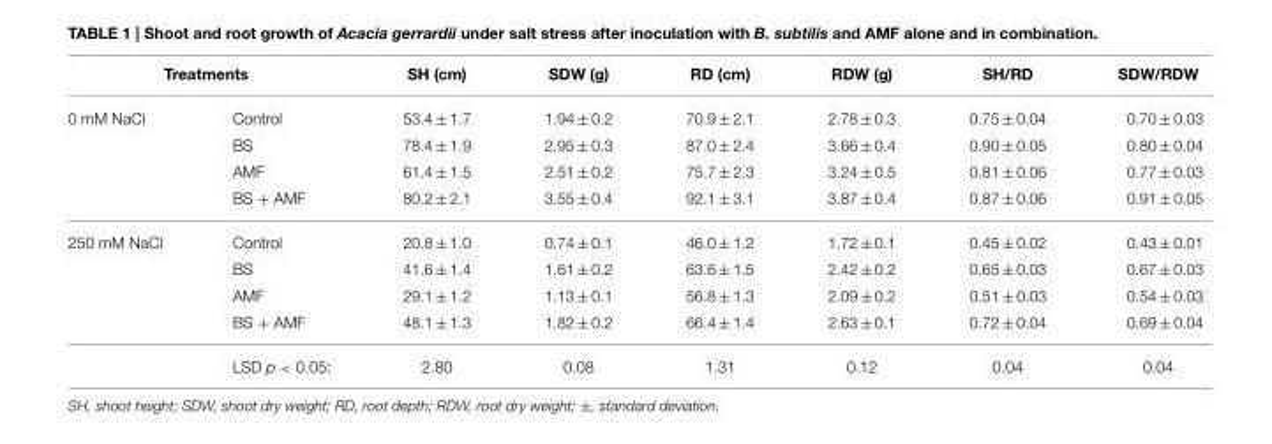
<table><thead><tr><td colspan="2">Treatments</td><td rowspan="2">SH (cm) 53.4 ± 1.7</td><td rowspan="2">SDW (g) 1.94 ± 0.2</td><td rowspan="2">RD (cm) 70.9 ± 2.1</td><td rowspan="2">RDW (g) 2.78 ± 0.3</td><td rowspan="2">SH/RD 0.75 ± 0.04</td><td rowspan="2">SDW/RDW 0.70 ± 0.03</td></tr><tr><td>0 mM NaCl</td><td>Control</td></tr></thead><tbody><tr><td></td><td>BS</td><td>78.4 ± 1.9</td><td>2.95 ± 0.3</td><td>87.0 ± 2.4</td><td>3.66 ± 0.4</td><td>0.90 ± 0.05</td><td>0.80 ± 0.04</td></tr><tr><td></td><td>AMF</td><td>61.4 ± 1.5</td><td>2.51 ± 0.2</td><td>75.7 ± 2.3</td><td>3.24 ± 0.5</td><td>0.81 ± 0.06</td><td>0.77 ± 0.03</td></tr><tr><td></td><td>BS + AMF</td><td>80.2 ± 2.1</td><td>3.55 ± 0.4</td><td>92.1 ± 3.1</td><td>3.87 ± 0.4</td><td>0.87 ± 0.06</td><td>0.91 ± 0.05</td></tr><tr><td rowspan="5">250 mM NaCl</td><td>Control</td><td>20.8 ± 1.0</td><td>0.74 ± 0.1</td><td>46.0 ± 1.2</td><td>1.72 ± 0.1</td><td>0.45 ± 0.02</td><td>0.43 ± 0.01</td></tr><tr><td>BS</td><td>41.6 ± 1.4</td><td>1.61 ± 0.2</td><td>63.6 ± 1.5</td><td>2.42 ± 0.2</td><td>0.65 ± 0.03</td><td>0.67 ± 0.03</td></tr><tr><td>AMF</td><td>29.1 ± 1.2</td><td>1.13 ± 0.1</td><td>56.8 ± 1.3</td><td>2.09 ± 0.2</td><td>0.51 ± 0.03</td><td>0.54 ± 0.03</td></tr><tr><td>BS + AMF</td><td>48.1 ± 1.3</td><td>1.82 ± 0.2</td><td>66.4 ± 1.4</td><td>2.63 ± 0.1</td><td>0.72 ± 0.04</td><td>0.69 ± 0.04</td></tr><tr><td>LSD p &lt; 0.05:</td><td>2.80</td><td>0.08</td><td>1.31</td><td>0.12</td><td>0.04</td><td>0.04</td></tr></tbody></table>